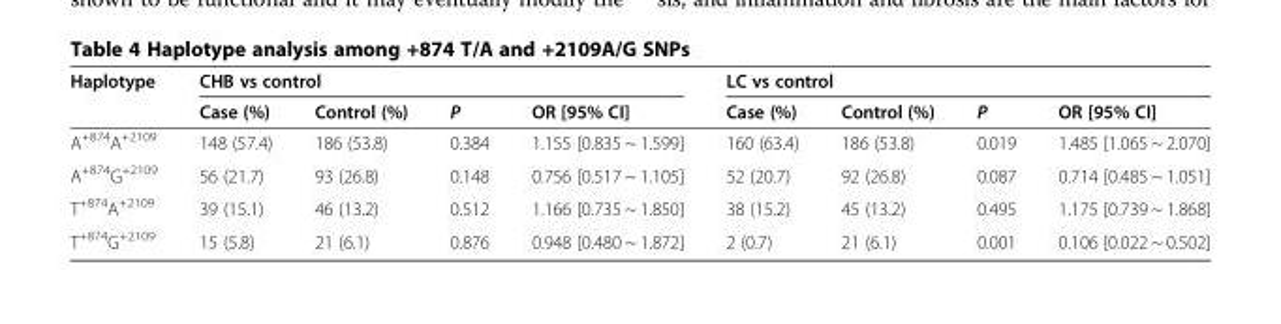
<table><thead><tr><td rowspan="2">Haplotype</td><td colspan="4">CHB vs control</td><td colspan="4">LC vs control</td></tr><tr><td>Case (%)</td><td>Control (%)</td><td>P</td><td>OR [95% CI]</td><td>Case (%)</td><td>Control (%)</td><td>P</td><td>OR [95% CI]</td></tr></thead><tbody><tr><td>A<sup>+874</sup>A<sup>+2109</sup></td><td>148 (57.4)</td><td>186 (53.8)</td><td>0.384</td><td>1.155 [0.835 ~ 1.599]</td><td>160 (63.4)</td><td>186 (53.8)</td><td>0.019</td><td>1.485 [1.065 ~ 2.070]</td></tr><tr><td>A<sup>+874</sup>G<sup>+2109</sup></td><td>56 (21.7)</td><td>93 (26.8)</td><td>0.148</td><td>0.756 [0.517 ~ 1.105]</td><td>52 (20.7)</td><td>92 (26.8)</td><td>0.087</td><td>0.714 [0.485 ~ 1.051]</td></tr><tr><td>T<sup>+874</sup>A<sup>+2109</sup></td><td>39 (15.1)</td><td>46 (13.2)</td><td>0.512</td><td>1.166 [0.735 ~ 1.850]</td><td>38 (15.2)</td><td>45 (13.2)</td><td>0.495</td><td>1.175 [0.739 ~ 1.868]</td></tr><tr><td>T<sup>+874</sup>G<sup>+2109</sup></td><td>15 (5.8)</td><td>21 (6.1)</td><td>0.876</td><td>0.948 [0.480 ~ 1.872]</td><td>2 (0.7)</td><td>21 (6.1)</td><td>0.001</td><td>0.106 [0.022 ~ 0.502]</td></tr></tbody></table>